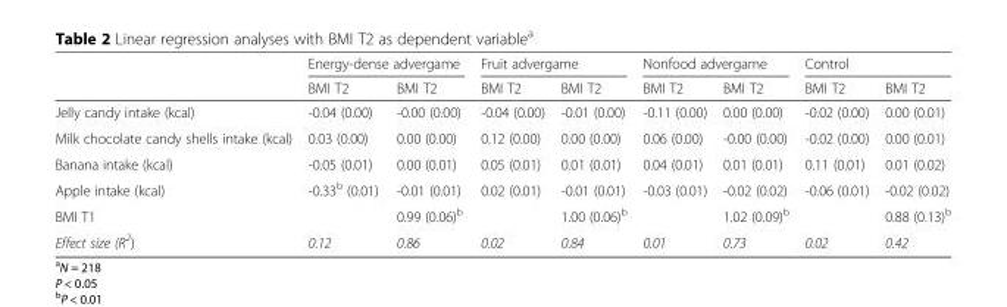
<table><thead><tr><td rowspan="2"></td><td colspan="2">Energy-dense advergame</td><td colspan="2">Fruit advergame</td><td colspan="2">Nonfood advergame</td><td colspan="2">Control</td></tr><tr><td>BMI T2</td><td>BMI T2</td><td>BMI T2</td><td>BMI T2</td><td>BMI T2</td><td>BMI T2</td><td>BMI T2</td><td>BMI T2</td></tr></thead><tbody><tr><td>Jelly candy intake (kcal)</td><td>-0.04 (0.00)</td><td>-0.00 (0.00)</td><td>-0.04 (0.00)</td><td>-0.01 (0.00)</td><td>-0.11 (0.00)</td><td>0.00 (0.00)</td><td>-0.02 (0.00)</td><td>0.00 (0.01)</td></tr><tr><td>Milk chocolate candy shells intake (kcal)</td><td>0.03 (0.00)</td><td>0.00 (0.00)</td><td>0.12 (0.00)</td><td>0.00 (0.00)</td><td>0.06 (0.00)</td><td>-0.00 (0.00)</td><td>-0.02 (0.00)</td><td>0.00 (0.01)</td></tr><tr><td>Banana intake (kcal)</td><td>-0.05 (0.01)</td><td>0.00 (0.01)</td><td>0.05 (0.01)</td><td>0.01 (0.01)</td><td>0.04 (0.01)</td><td>0.01 (0.01)</td><td>0.11 (0.01)</td><td>0.01 (0.02)</td></tr><tr><td>Apple intake (kcal)</td><td>-0.33<sup>b</sup> (0.01)</td><td>-0.01 (0.01)</td><td>0.02 (0.01)</td><td>-0.01 (0.01)</td><td>-0.03 (0.01)</td><td>-0.02 (0.02)</td><td>-0.06 (0.01)</td><td>-0.02 (0.02)</td></tr><tr><td>BMI T1</td><td></td><td>0.99 (0.06)<sup>b</sup></td><td></td><td>1.00 (0.06)<sup>b</sup></td><td></td><td>1.02 (0.09)<sup>b</sup></td><td></td><td>0.88 (0.13)<sup>b</sup></td></tr><tr><td>Effect size (R<sup>2</sup>)</td><td>0.12</td><td>0.86</td><td>0.02</td><td>0.84</td><td>0.01</td><td>0.73</td><td>0.02</td><td>0.42</td></tr></tbody></table>